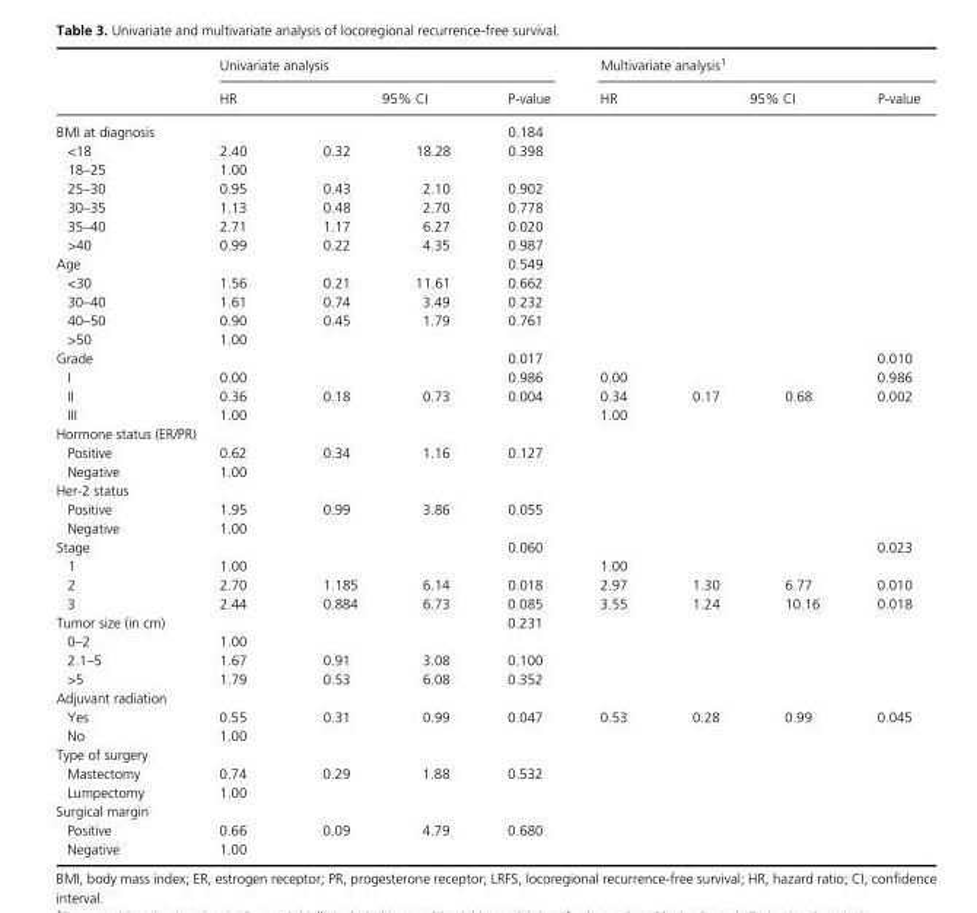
<table><thead><tr><td rowspan="3">BMI at diagnosis</td><td colspan="4">Univariate analysis</td><td colspan="4">Multivariate analysis1</td></tr><tr><td rowspan="2">HR</td><td colspan="2">95% CI</td><td rowspan="2">P- value 0.184</td><td rowspan="2">HR</td><td colspan="2">95% CI</td><td rowspan="2">P- value</td></tr><tr><td></td><td></td><td></td><td></td></tr></thead><tbody><tr><td>&lt;18</td><td>2.40</td><td>0.32</td><td>18.28</td><td>0.398</td><td></td><td></td><td></td><td></td></tr><tr><td>18–25</td><td>1.00</td><td></td><td></td><td></td><td></td><td></td><td></td><td></td></tr><tr><td>25–30</td><td>0.95</td><td>0.43</td><td>2.10</td><td>0.902</td><td></td><td></td><td></td><td></td></tr><tr><td>30–35</td><td>1.13</td><td>0.48</td><td>2.70</td><td>0.778</td><td></td><td></td><td></td><td></td></tr><tr><td>35–40</td><td>2.71</td><td>1.17</td><td>6.27</td><td>0.020</td><td></td><td></td><td></td><td></td></tr><tr><td>&gt;40</td><td>0.99</td><td>0.22</td><td>4.35</td><td>0.987</td><td></td><td></td><td></td><td></td></tr><tr><td>Age</td><td></td><td></td><td></td><td>0.549</td><td></td><td></td><td></td><td></td></tr><tr><td>&lt;30</td><td>1.56</td><td>0.21</td><td>11.61</td><td>0.662</td><td></td><td></td><td></td><td></td></tr><tr><td>30–40</td><td>1.61</td><td>0.74</td><td>3.49</td><td>0.232</td><td></td><td></td><td></td><td></td></tr><tr><td>40–50</td><td>0.90</td><td>0.45</td><td>1.79</td><td>0.761</td><td></td><td></td><td></td><td></td></tr><tr><td>&gt;50</td><td>1.00</td><td></td><td></td><td></td><td></td><td></td><td></td><td></td></tr><tr><td>Grade</td><td></td><td></td><td></td><td>0.017</td><td></td><td></td><td></td><td>0.010</td></tr><tr><td>I</td><td>0.00</td><td></td><td></td><td>0.986</td><td>0.00</td><td></td><td></td><td>0.986</td></tr><tr><td>II</td><td>0.36</td><td>0.18</td><td>0.73</td><td>0.004</td><td>0.34</td><td>0.17</td><td>0.68</td><td>0.002</td></tr><tr><td>III</td><td>1.00</td><td></td><td></td><td></td><td>1.00</td><td></td><td></td><td></td></tr><tr><td colspan="9">Hormone status (ER/PR)</td></tr><tr><td>Positive</td><td>0.62</td><td>0.34</td><td>1.16</td><td>0.127</td><td></td><td></td><td></td><td></td></tr><tr><td>Negative</td><td>1.00</td><td></td><td></td><td></td><td></td><td></td><td></td><td></td></tr><tr><td colspan="9">Her- 2 status</td></tr><tr><td>Positive</td><td>1.95</td><td>0.99</td><td>3.86</td><td>0.055</td><td></td><td></td><td></td><td></td></tr><tr><td>Negative</td><td>1.00</td><td></td><td></td><td></td><td></td><td></td><td></td><td></td></tr><tr><td>Stage</td><td></td><td></td><td></td><td>0.060</td><td></td><td></td><td></td><td>0.023</td></tr><tr><td>1</td><td>1.00</td><td></td><td></td><td></td><td>1.00</td><td></td><td></td><td></td></tr><tr><td>2</td><td>2.70</td><td>1.185</td><td>6.14</td><td>0.018</td><td>2.97</td><td>1.30</td><td>6.77</td><td>0.010</td></tr><tr><td>3</td><td>2.44</td><td>0.884</td><td>6.73</td><td>0.085</td><td>3.55</td><td>1.24</td><td>10.16</td><td>0.018</td></tr><tr><td>Tumor size (in cm)</td><td></td><td></td><td></td><td>0.231</td><td></td><td></td><td></td><td></td></tr><tr><td>0–2</td><td>1.00</td><td></td><td></td><td></td><td></td><td></td><td></td><td></td></tr><tr><td>2.1–5</td><td>1.67</td><td>0.91</td><td>3.08</td><td>0.100</td><td></td><td></td><td></td><td></td></tr><tr><td>&gt;5</td><td>1.79</td><td>0.53</td><td>6.08</td><td>0.352</td><td></td><td></td><td></td><td></td></tr><tr><td colspan="9">Adjuvant radiation</td></tr><tr><td>Yes</td><td>0.55</td><td>0.31</td><td>0.99</td><td>0.047</td><td>0.53</td><td>0.28</td><td>0.99</td><td>0.045</td></tr><tr><td>No</td><td>1.00</td><td></td><td></td><td></td><td></td><td></td><td></td><td></td></tr><tr><td colspan="9">Type of surgery</td></tr><tr><td>Mastectomy</td><td>0.74</td><td>0.29</td><td>1.88</td><td>0.532</td><td></td><td></td><td></td><td></td></tr><tr><td>Lumpectomy</td><td>1.00</td><td></td><td></td><td></td><td></td><td></td><td></td><td></td></tr><tr><td colspan="9">Surgical margin</td></tr><tr><td>Positive</td><td>0.66</td><td>0.09</td><td>4.79</td><td>0.680</td><td></td><td></td><td></td><td></td></tr><tr><td>Negative</td><td>1.00</td><td></td><td></td><td></td><td></td><td></td><td></td><td></td></tr></tbody></table>